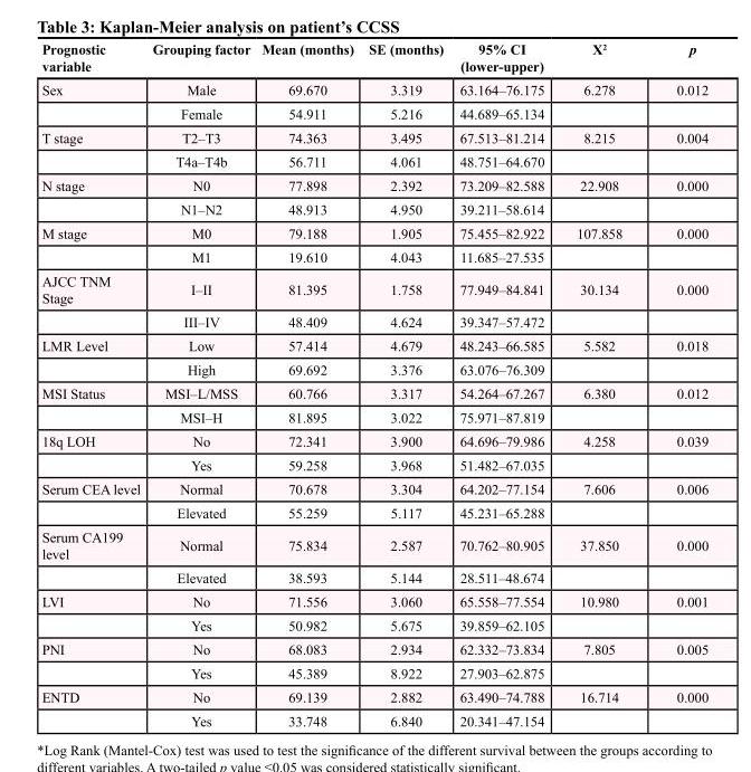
<table><thead><tr><td>Prognostic variable</td><td>Grouping factor</td><td>Mean (months)</td><td>SE (months)</td><td>95% CI (lower-upper)</td><td>X<sup>2</sup></td><td>p</td></tr></thead><tbody><tr><td rowspan="2">Sex</td><td>Male</td><td>69.670</td><td>3.319</td><td>63.164–76.175</td><td>6.278</td><td>0.012</td></tr><tr><td>Female</td><td>54.911</td><td>5.216</td><td>44.689–65.134</td><td></td><td></td></tr><tr><td rowspan="2">T stage</td><td>T2–T3</td><td>74.363</td><td>3.495</td><td>67.513–81.214</td><td>8.215</td><td>0.004</td></tr><tr><td>T4a–T4b</td><td>56.711</td><td>4.061</td><td>48.751–64.670</td><td></td><td></td></tr><tr><td rowspan="2">N stage</td><td>N0</td><td>77.898</td><td>2.392</td><td>73.209–82.588</td><td>22.908</td><td>0.000</td></tr><tr><td>N1–N2</td><td>48.913</td><td>4.950</td><td>39.211–58.614</td><td></td><td></td></tr><tr><td rowspan="2">M stage</td><td>M0</td><td>79.188</td><td>1.905</td><td>75.455–82.922</td><td>107.858</td><td>0.000</td></tr><tr><td>M1</td><td>19.610</td><td>4.043</td><td>11.685–27.535</td><td></td><td></td></tr><tr><td rowspan="2">AJCC TNM Stage</td><td>I–II</td><td>81.395</td><td>1.758</td><td>77.949–84.841</td><td>30.134</td><td>0.000</td></tr><tr><td>III–IV</td><td>48.409</td><td>4.624</td><td>39.347–57.472</td><td></td><td></td></tr><tr><td rowspan="2">LMR Level</td><td>Low</td><td>57.414</td><td>4.679</td><td>48.243–66.585</td><td>5.582</td><td>0.018</td></tr><tr><td>High</td><td>69.692</td><td>3.376</td><td>63.076–76.309</td><td></td><td></td></tr><tr><td rowspan="2">MSI Status</td><td>MSI–L/MSS</td><td>60.766</td><td>3.317</td><td>54.264–67.267</td><td>6.380</td><td>0.012</td></tr><tr><td>MSI–H</td><td>81.895</td><td>3.022</td><td>75.971–87.819</td><td></td><td></td></tr><tr><td rowspan="2">18q LOH</td><td>No</td><td>72.341</td><td>3.900</td><td>64.696–79.986</td><td>4.258</td><td>0.039</td></tr><tr><td>Yes</td><td>59.258</td><td>3.968</td><td>51.482–67.035</td><td></td><td></td></tr><tr><td rowspan="2">Serum CEA level</td><td>Normal</td><td>70.678</td><td>3.304</td><td>64.202–77.154</td><td>7.606</td><td>0.006</td></tr><tr><td>Elevated</td><td>55.259</td><td>5.117</td><td>45.231–65.288</td><td></td><td></td></tr><tr><td rowspan="2">Serum CA199 level</td><td>Normal</td><td>75.834</td><td>2.587</td><td>70.762–80.905</td><td>37.850</td><td>0.000</td></tr><tr><td>Elevated</td><td>38.593</td><td>5.144</td><td>28.511–48.674</td><td></td><td></td></tr><tr><td rowspan="2">LVI</td><td>No</td><td>71.556</td><td>3.060</td><td>65.558–77.554</td><td>10.980</td><td>0.001</td></tr><tr><td>Yes</td><td>50.982</td><td>5.675</td><td>39.859–62.105</td><td></td><td></td></tr><tr><td rowspan="2">PNI</td><td>No</td><td>68.083</td><td>2.934</td><td>62.332–73.834</td><td>7.805</td><td>0.005</td></tr><tr><td>Yes</td><td>45.389</td><td>8.922</td><td>27.903–62.875</td><td></td><td></td></tr><tr><td rowspan="2">ENTD</td><td>No</td><td>69.139</td><td>2.882</td><td>63.490–74.788</td><td>16.714</td><td>0.000</td></tr><tr><td>Yes</td><td>33.748</td><td>6.840</td><td>20.341–47.154</td><td></td><td></td></tr></tbody></table>